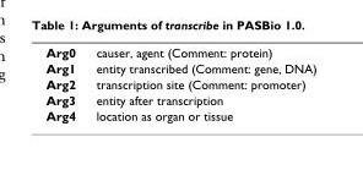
<table><tbody><tr><td>Arg0</td><td>causer, agent (Comment: protein)</td></tr><tr><td>Arg1</td><td>entity transcribed (Comment: gene, DNA)</td></tr><tr><td>Arg2</td><td>transcription site (Comment: promoter)</td></tr><tr><td>Arg3</td><td>entity after transcription</td></tr><tr><td>Arg4</td><td>location as organ or tissue</td></tr></tbody></table>